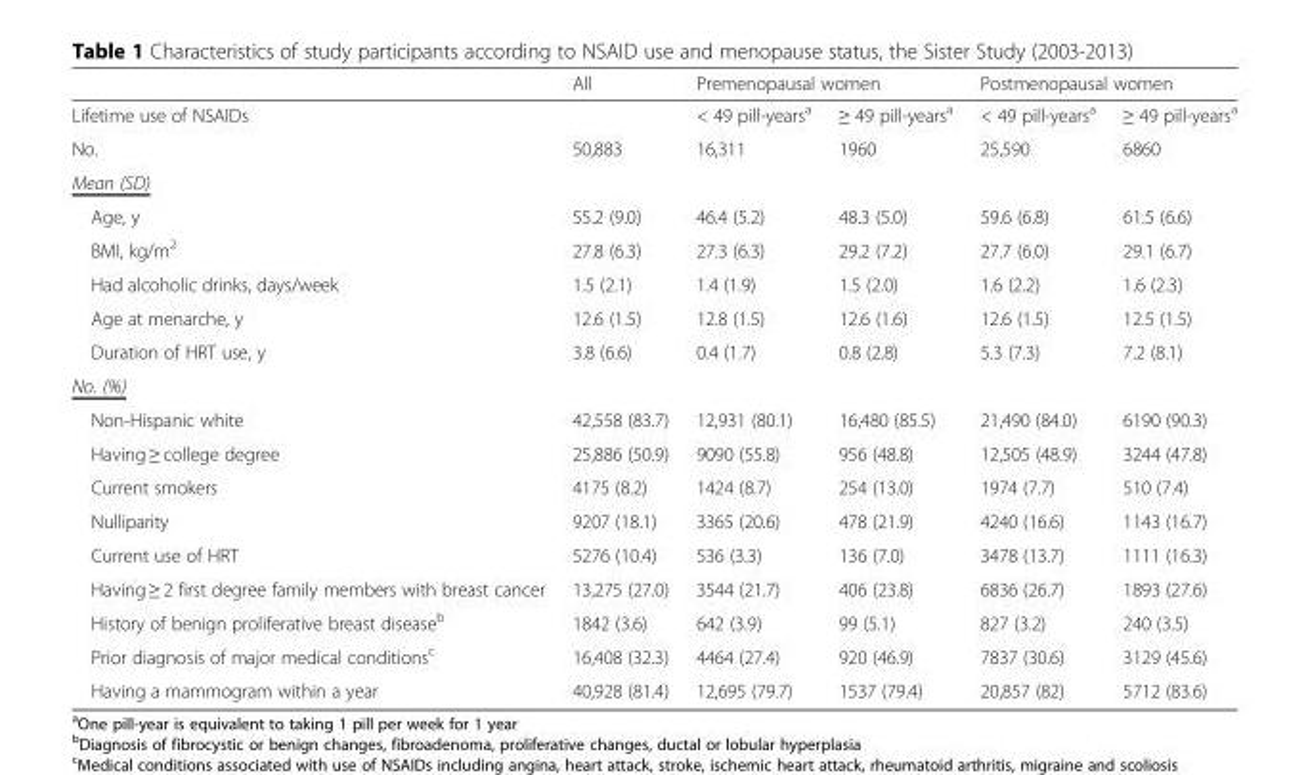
<table><thead><tr><td rowspan="2">Lifetime use of NSAIDs</td><td rowspan="2">All</td><td colspan="2">Premenopausal women</td><td colspan="2">Postmenopausal women</td></tr><tr><td>&lt; 49 pill-years<sup>a</sup></td><td>≥ 49 pill-years<sup>a</sup></td><td>&lt; 49 pill-years<sup>a</sup></td><td>≥ 49 pill-years<sup>a</sup></td></tr></thead><tbody><tr><td>No.</td><td>50,883</td><td>16,311</td><td>1960</td><td>25,590</td><td>6860</td></tr><tr><td colspan="6">Mean (SD)</td></tr><tr><td>Age, y</td><td>55.2 (9.0)</td><td>46.4 (5.2)</td><td>48.3 (5.0)</td><td>59.6 (6.8)</td><td>61.5 (6.6)</td></tr><tr><td>BMI, kg/m<sup>2</sup></td><td>27.8 (6.3)</td><td>27.3 (6.3)</td><td>29.2 (7.2)</td><td>27.7 (6.0)</td><td>29.1 (6.7)</td></tr><tr><td>Had alcoholic drinks, days/week</td><td>1.5 (2.1)</td><td>1.4 (1.9)</td><td>1.5 (2.0)</td><td>1.6 (2.2)</td><td>1.6 (2.3)</td></tr><tr><td>Age at menarche, y</td><td>12.6 (1.5)</td><td>12.8 (1.5)</td><td>12.6 (1.6)</td><td>12.6 (1.5)</td><td>12.5 (1.5)</td></tr><tr><td>Duration of HRT use, y</td><td>3.8 (6.6)</td><td>0.4 (1.7)</td><td>0.8 (2.8)</td><td>5.3 (7.3)</td><td>7.2 (8.1)</td></tr><tr><td colspan="6">No. (%)</td></tr><tr><td>Non-Hispanic white</td><td>42,558 (83.7)</td><td>12,931 (80.1)</td><td>16,480 (85.5)</td><td>21,490 (84.0)</td><td>6190 (90.3)</td></tr><tr><td>Having ≥ college degree</td><td>25,886 (50.9)</td><td>9090 (55.8)</td><td>956 (48.8)</td><td>12,505 (48.9)</td><td>3244 (47.8)</td></tr><tr><td>Current smokers</td><td>4175 (8.2)</td><td>1424 (8.7)</td><td>254 (13.0)</td><td>1974 (7.7)</td><td>510 (7.4)</td></tr><tr><td>Nulliparity</td><td>9207 (18.1)</td><td>3365 (20.6)</td><td>478 (21.9)</td><td>4240 (16.6)</td><td>1143 (16.7)</td></tr><tr><td>Current use of HRT</td><td>5276 (10.4)</td><td>536 (3.3)</td><td>136 (7.0)</td><td>3478 (13.7)</td><td>1111 (16.3)</td></tr><tr><td>Having ≥ 2 first degree family members with breast cancer</td><td>13,275 (27.0)</td><td>3544 (21.7)</td><td>406 (23.8)</td><td>6836 (26.7)</td><td>1893 (27.6)</td></tr><tr><td>History of benign proliferative breast disease<sup>b</sup></td><td>1842 (3.6)</td><td>642 (3.9)</td><td>99 (5.1)</td><td>827 (3.2)</td><td>240 (3.5)</td></tr><tr><td>Prior diagnosis of major medical conditions<sup>c</sup></td><td>16,408 (32.3)</td><td>4464 (27.4)</td><td>920 (46.9)</td><td>7837 (30.6)</td><td>3129 (45.6)</td></tr><tr><td>Having a mammogram within a year</td><td>40,928 (81.4)</td><td>12,695 (79.7)</td><td>1537 (79.4)</td><td>20,857 (82)</td><td>5712 (83.6)</td></tr></tbody></table>